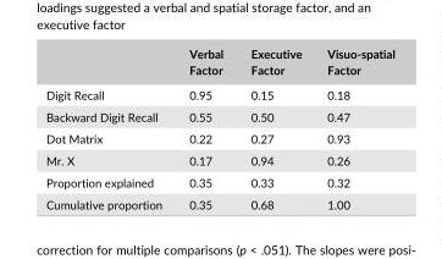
<table><thead><tr><td></td><td>Verbal Factor</td><td>Executive Factor</td><td>Visuo- spatial Factor</td></tr></thead><tbody><tr><td>Digit Recall</td><td>0.95</td><td>0.15</td><td>0.18</td></tr><tr><td>Backward Digit Recall</td><td>0.55</td><td>0.50</td><td>0.47</td></tr><tr><td>Dot Matrix</td><td>0.22</td><td>0.27</td><td>0.93</td></tr><tr><td>Mr. X</td><td>0.17</td><td>0.94</td><td>0.26</td></tr><tr><td>Proportion explained</td><td>0.35</td><td>0.33</td><td>0.32</td></tr><tr><td>Cumulative proportion</td><td>0.35</td><td>0.68</td><td>1.00</td></tr></tbody></table>